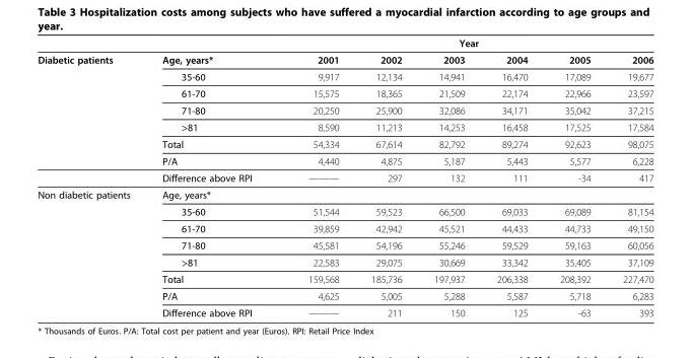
<table><thead><tr><td rowspan="2">Diabetic patients</td><td rowspan="2">Age, years*</td><td colspan="6">Year</td></tr><tr><td>2001</td><td>2002</td><td>2003</td><td>2004</td><td>2005</td><td>2006</td></tr></thead><tbody><tr><td></td><td>35-60</td><td>9,917</td><td>12,134</td><td>14,941</td><td>16,470</td><td>17,089</td><td>19,677</td></tr><tr><td></td><td>61-70</td><td>15,575</td><td>18,365</td><td>21,509</td><td>22,174</td><td>22,966</td><td>23,597</td></tr><tr><td></td><td>71-80</td><td>20,250</td><td>25,900</td><td>32,086</td><td>34,171</td><td>35,042</td><td>37,215</td></tr><tr><td></td><td>&gt;81</td><td>8,590</td><td>11,213</td><td>14,253</td><td>16,458</td><td>17,525</td><td>17,584</td></tr><tr><td></td><td>Total</td><td>54,334</td><td>67,614</td><td>82,792</td><td>89,274</td><td>92,623</td><td>98,075</td></tr><tr><td></td><td>P/A</td><td>4,440</td><td>4,875</td><td>5,187</td><td>5,443</td><td>5,577</td><td>6,228</td></tr><tr><td></td><td>Difference above RPI</td><td>———</td><td>297</td><td>132</td><td>111</td><td>-34</td><td>417</td></tr><tr><td rowspan="8">Non diabetic patients</td><td>Age, years*</td><td></td><td></td><td></td><td></td><td></td><td></td></tr><tr><td>35-60</td><td>51,544</td><td>59,523</td><td>66,500</td><td>69,033</td><td>69,089</td><td>81,154</td></tr><tr><td>61-70</td><td>39,859</td><td>42,942</td><td>45,521</td><td>44,433</td><td>44,733</td><td>49,150</td></tr><tr><td>71-80</td><td>45,581</td><td>54,196</td><td>55,246</td><td>59,529</td><td>59,163</td><td>60,056</td></tr><tr><td>&gt;81</td><td>22,583</td><td>29,075</td><td>30,669</td><td>33,342</td><td>35,405</td><td>37,109</td></tr><tr><td>Total</td><td>159,568</td><td>185,736</td><td>197,937</td><td>206,338</td><td>208,392</td><td>227,470</td></tr><tr><td>P/A</td><td>4,625</td><td>5,005</td><td>5,288</td><td>5,587</td><td>5,718</td><td>6,283</td></tr><tr><td>Difference above RPI</td><td>———</td><td>211</td><td>150</td><td>125</td><td>-63</td><td>393</td></tr></tbody></table>